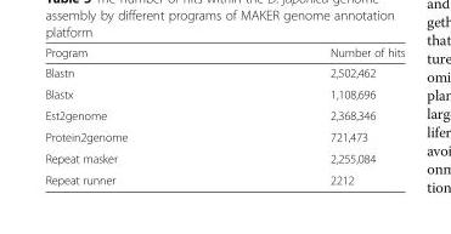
<table><thead><tr><td>Program</td><td>Number of hits</td></tr></thead><tbody><tr><td>Blastn</td><td>2,502,462</td></tr><tr><td>Blastx</td><td>1,108,696</td></tr><tr><td>Est2genome</td><td>2,368,346</td></tr><tr><td>Protein2genome</td><td>721,473</td></tr><tr><td>Repeat masker</td><td>2,255,084</td></tr><tr><td>Repeat runner</td><td>2212</td></tr></tbody></table>